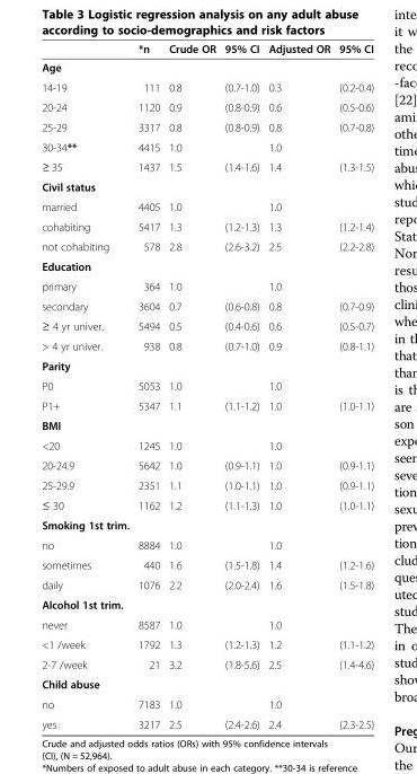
<table><thead><tr><td></td><td>*n</td><td>Crude OR</td><td>95% CI</td><td>Adjusted OR</td><td>95% CI</td></tr></thead><tbody><tr><td colspan="6">Age</td></tr><tr><td>14-19</td><td>111</td><td>0.8</td><td>(0.7-1.0)</td><td>0.3</td><td>(0.2-0.4)</td></tr><tr><td>20-24</td><td>1120</td><td>0.9</td><td>(0.8-0.9)</td><td>0.6</td><td>(0.5-0.6)</td></tr><tr><td>25-29</td><td>3317</td><td>0.8</td><td>(0.8-0.9)</td><td>0.8</td><td>(0.7-0.8)</td></tr><tr><td>30-34**</td><td>4415</td><td>1.0</td><td></td><td>1.0</td><td></td></tr><tr><td>≥ 35</td><td>1437</td><td>1.5</td><td>(1.4-1.6)</td><td>1.4</td><td>(1.3-1.5)</td></tr><tr><td colspan="6">Civil status</td></tr><tr><td>married</td><td>4405</td><td>1.0</td><td></td><td>1.0</td><td></td></tr><tr><td>cohabiting</td><td>5417</td><td>1.3</td><td>(1.2-1.3)</td><td>1.3</td><td>(1.2-1.4)</td></tr><tr><td>not cohabiting</td><td>578</td><td>2.8</td><td>(2.6-3.2)</td><td>2.5</td><td>(2.2-2.8)</td></tr><tr><td colspan="6">Education</td></tr><tr><td>primary</td><td>364</td><td>1.0</td><td></td><td>1.0</td><td></td></tr><tr><td>secondary</td><td>3604</td><td>0.7</td><td>(0.6-0.8)</td><td>0.8</td><td>(0.7-0.9)</td></tr><tr><td>≥ 4 yr univer.</td><td>5494</td><td>0.5</td><td>(0.4-0.6)</td><td>0.6</td><td>(0.5-0.7)</td></tr><tr><td>&gt; 4 yr univer.</td><td>938</td><td>0.8</td><td>(0.7-1.0)</td><td>0.9</td><td>(0.8-1.1)</td></tr><tr><td colspan="6">Parity</td></tr><tr><td>P0</td><td>5053</td><td>1.0</td><td></td><td>1.0</td><td></td></tr><tr><td>P1+</td><td>5347</td><td>1.1</td><td>(1.1-1.2)</td><td>1.0</td><td>(1.0-1.1)</td></tr><tr><td colspan="6">BMI</td></tr><tr><td>&lt;20</td><td>1245</td><td>1.0</td><td></td><td>1.0</td><td></td></tr><tr><td>20-24.9</td><td>5642</td><td>1.0</td><td>(0.9-1.1)</td><td>1.0</td><td>(0.9-1.1)</td></tr><tr><td>25-29.9</td><td>2351</td><td>1.1</td><td>(1.0-1.1)</td><td>1.0</td><td>(0.9-1.1)</td></tr><tr><td>≤ 30</td><td>1162</td><td>1.2</td><td>(1.1-1.3)</td><td>1.0</td><td>(1.0-1.1)</td></tr><tr><td colspan="6">Smoking 1st trim.</td></tr><tr><td>no</td><td>8884</td><td>1.0</td><td></td><td>1.0</td><td></td></tr><tr><td>sometimes</td><td>440</td><td>1.6</td><td>(1.5-1.8)</td><td>1.4</td><td>(1.2-1.6)</td></tr><tr><td>daily</td><td>1076</td><td>2.2</td><td>(2.0-2.4)</td><td>1.6</td><td>(1.5-1.8)</td></tr><tr><td colspan="6">Alcohol 1st trim.</td></tr><tr><td>never</td><td>8587</td><td>1.0</td><td></td><td>1.0</td><td></td></tr><tr><td>&lt;1 /week</td><td>1792</td><td>1.3</td><td>(1.2-1.3)</td><td>1.2</td><td>(1.1-1.2)</td></tr><tr><td>2-7 /week</td><td>21</td><td>3.2</td><td>(1.8-5.6)</td><td>2.5</td><td>(1.4-4.6)</td></tr><tr><td colspan="6">Child abuse</td></tr><tr><td>no</td><td>7183</td><td>1.0</td><td></td><td>1.0</td><td></td></tr><tr><td>yes</td><td>3217</td><td>2.5</td><td>(2.4-2.6)</td><td>2.4</td><td>(2.3-2.5)</td></tr></tbody></table>